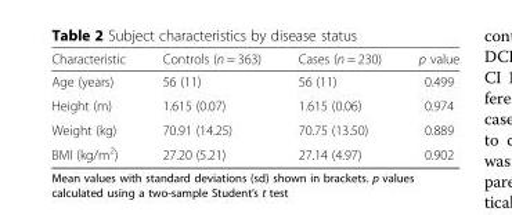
<table><thead><tr><td>Characteristic</td><td>Controls (n = 363)</td><td>Cases (n = 230)</td><td>p value</td></tr></thead><tbody><tr><td>Age (years)</td><td>56 (11)</td><td>56 (11)</td><td>0.499</td></tr><tr><td>Height (m)</td><td>1.615 (0.07)</td><td>1.615 (0.06)</td><td>0.974</td></tr><tr><td>Weight (kg)</td><td>70.91 (14.25)</td><td>70.75 (13.50)</td><td>0.889</td></tr><tr><td>BMI (kg/m<sup>2</sup>)</td><td>27.20 (5.21)</td><td>27.14 (4.97)</td><td>0.902</td></tr></tbody></table>